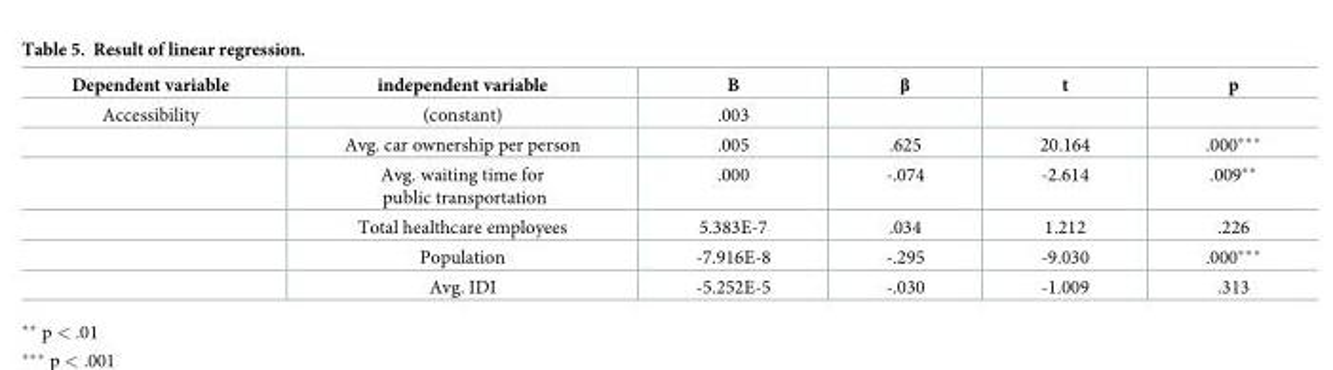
<table><thead><tr><td>Dependent variable</td><td>independent variable</td><td>B</td><td>β</td><td>t</td><td>p</td></tr></thead><tbody><tr><td rowspan="6">Accessibility</td><td>(constant)</td><td>.003</td><td></td><td></td><td></td></tr><tr><td>Avg. car ownership per person</td><td>.005</td><td>.625</td><td>20.164</td><td>.000***</td></tr><tr><td>Avg. waiting time for public transportation</td><td>.000</td><td>-.074</td><td>-2.614</td><td>.009**</td></tr><tr><td>Total healthcare employees</td><td>5.383E-7</td><td>.034</td><td>1.212</td><td>.226</td></tr><tr><td>Population</td><td>-7.916E-8</td><td>-.295</td><td>-9.030</td><td>.000***</td></tr><tr><td>Avg. IDI</td><td>-5.252E-5</td><td>-.030</td><td>-1.009</td><td>.313</td></tr></tbody></table>